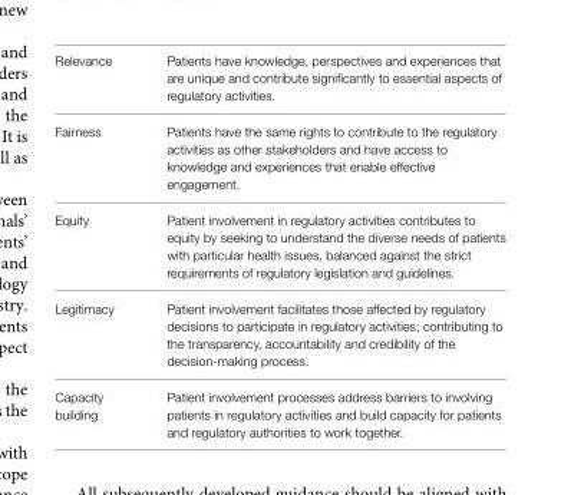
<table><tbody><tr><td>Relevance</td><td>Patients have knowledge, perspectives and experiences that are unique and contribute significantly to essential aspects of regulatory activities.</td></tr><tr><td>Fairness</td><td>Patients have the same rights to contribute to the regulatory activities as other stakeholders and have access to knowledge and experiences that enable effective engagement.</td></tr><tr><td>Equity</td><td>Patient involvement in regulatory activities contributes to equity by seeking to understand the diverse needs of patients with particular health issues, balanced against the strict requirements of regulatory legislation and guidelines.</td></tr><tr><td>Legitimacy</td><td>Patient involvement facilitates those affected by regulatory decisions to participate in regulatory activities; contributing to the transparency, accountability and credibility of the decision-making process.</td></tr><tr><td>Capacity building</td><td>Patient involvement processes address barriers to involving patients in regulatory activities and build capacity for patients and regulatory authorities to work together.</td></tr></tbody></table>